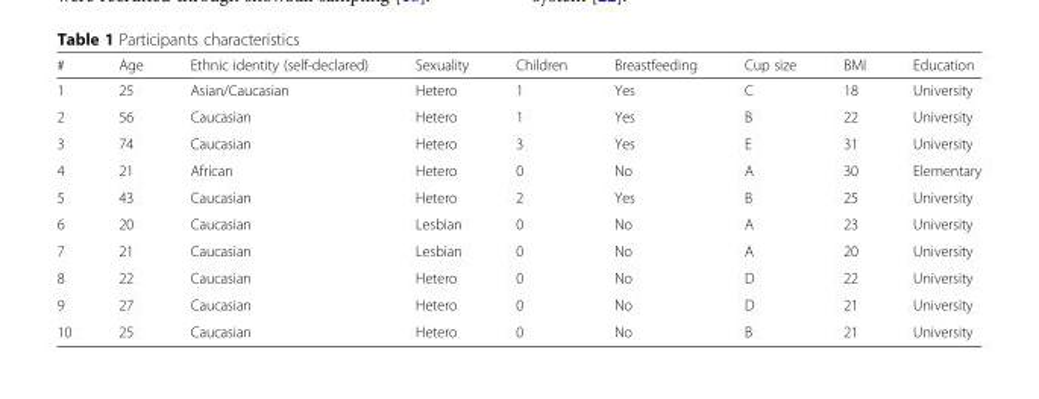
<table><thead><tr><td>#</td><td>Age</td><td>Ethnic identity (self-declared)</td><td>Sexuality</td><td>Children</td><td>Breastfeeding</td><td>Cup size</td><td>BMI</td><td>Education</td></tr></thead><tbody><tr><td>1</td><td>25</td><td>Asian/Caucasian</td><td>Hetero</td><td>1</td><td>Yes</td><td>C</td><td>18</td><td>University</td></tr><tr><td>2</td><td>56</td><td>Caucasian</td><td>Hetero</td><td>1</td><td>Yes</td><td>B</td><td>22</td><td>University</td></tr><tr><td>3</td><td>74</td><td>Caucasian</td><td>Hetero</td><td>3</td><td>Yes</td><td>E</td><td>31</td><td>University</td></tr><tr><td>4</td><td>21</td><td>African</td><td>Hetero</td><td>0</td><td>No</td><td>A</td><td>30</td><td>Elementary</td></tr><tr><td>5</td><td>43</td><td>Caucasian</td><td>Hetero</td><td>2</td><td>Yes</td><td>B</td><td>25</td><td>University</td></tr><tr><td>6</td><td>20</td><td>Caucasian</td><td>Lesbian</td><td>0</td><td>No</td><td>A</td><td>23</td><td>University</td></tr><tr><td>7</td><td>21</td><td>Caucasian</td><td>Lesbian</td><td>0</td><td>No</td><td>A</td><td>20</td><td>University</td></tr><tr><td>8</td><td>22</td><td>Caucasian</td><td>Hetero</td><td>0</td><td>No</td><td>D</td><td>22</td><td>University</td></tr><tr><td>9</td><td>27</td><td>Caucasian</td><td>Hetero</td><td>0</td><td>No</td><td>D</td><td>21</td><td>University</td></tr><tr><td>10</td><td>25</td><td>Caucasian</td><td>Hetero</td><td>0</td><td>No</td><td>B</td><td>21</td><td>University</td></tr></tbody></table>